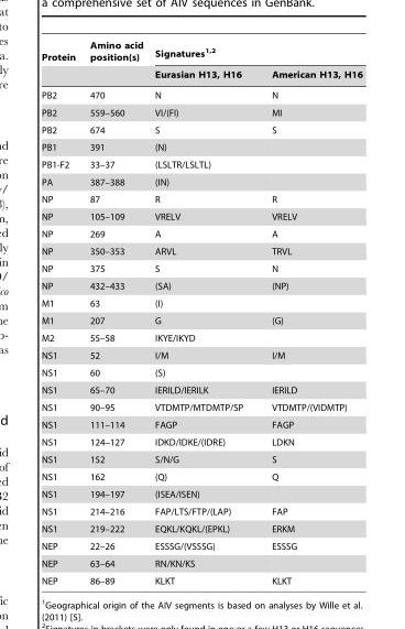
<table><thead><tr><td rowspan="2">Protein</td><td rowspan="2">Amino acid position(s)</td><td colspan="2">Signatures<sup>1,2</sup></td></tr><tr><td>Eurasian H13, H16</td><td>American H13, H16</td></tr></thead><tbody><tr><td>PB2</td><td>470</td><td>N</td><td>N</td></tr><tr><td>PB2</td><td>559–560</td><td>VI/(FI)</td><td>MI</td></tr><tr><td>PB2</td><td>674</td><td>S</td><td>S</td></tr><tr><td>PB1</td><td>391</td><td>(N)</td><td></td></tr><tr><td>PB1-F2</td><td>33–37</td><td>(LSLTR/LSLTL)</td><td></td></tr><tr><td>PA</td><td>387–388</td><td>(IN)</td><td></td></tr><tr><td>NP</td><td>87</td><td>R</td><td>R</td></tr><tr><td>NP</td><td>105–109</td><td>VRELV</td><td>VRELV</td></tr><tr><td>NP</td><td>269</td><td>A</td><td>A</td></tr><tr><td>NP</td><td>350–353</td><td>ARVL</td><td>TRVL</td></tr><tr><td>NP</td><td>375</td><td>S</td><td>N</td></tr><tr><td>NP</td><td>432–433</td><td>(SA)</td><td>(NP)</td></tr><tr><td>M1</td><td>63</td><td>(I)</td><td></td></tr><tr><td>M1</td><td>207</td><td>G</td><td>(G)</td></tr><tr><td>M2</td><td>55–58</td><td>IKYE/IKYD</td><td></td></tr><tr><td>NS1</td><td>52</td><td>I/M</td><td>I/M</td></tr><tr><td>NS1</td><td>60</td><td>(S)</td><td></td></tr><tr><td>NS1</td><td>65–70</td><td>IERILD/IERILK</td><td>IERILD</td></tr><tr><td>NS1</td><td>90–95</td><td>VTDMTP/MTDMTP/SP</td><td>VTDMTP/(VIDMTP)</td></tr><tr><td>NS1</td><td>111–114</td><td>FAGP</td><td>FAGP</td></tr><tr><td>NS1</td><td>124–127</td><td>IDKD/IDKE/(IDRE)</td><td>LDKN</td></tr><tr><td>NS1</td><td>152</td><td>S/N/G</td><td>S</td></tr><tr><td>NS1</td><td>162</td><td>(Q)</td><td>Q</td></tr><tr><td>NS1</td><td>194–197</td><td>(ISEA/ISEN)</td><td></td></tr><tr><td>NS1</td><td>214–216</td><td>FAP/LTS/FTP/(LAP)</td><td>FAP</td></tr><tr><td>NS1</td><td>219–222</td><td>EQKL/KQKL/(EPKL)</td><td>ERKM</td></tr><tr><td>NEP</td><td>22–26</td><td>ESSSG/(VSSSG)</td><td>ESSSG</td></tr><tr><td>NEP</td><td>63–64</td><td>RN/KN/KS</td><td></td></tr><tr><td>NEP</td><td>86–89</td><td>KLKT</td><td>KLKT</td></tr></tbody></table>